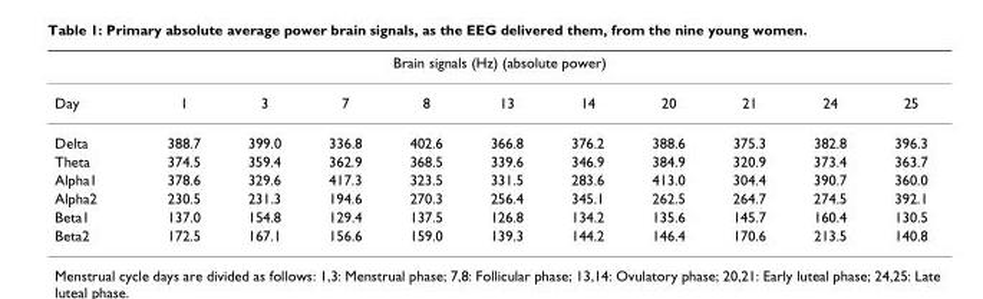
<table><thead><tr><td colspan="11">Brain signals (Hz) (absolute power)</td></tr><tr><td>Day</td><td>1</td><td>3</td><td>7</td><td>8</td><td>13</td><td>14</td><td>20</td><td>21</td><td>24</td><td>25</td></tr></thead><tbody><tr><td>Delta</td><td>388.7</td><td>399.0</td><td>336.8</td><td>402.6</td><td>366.8</td><td>376.2</td><td>388.6</td><td>375.3</td><td>382.8</td><td>396.3</td></tr><tr><td>Theta</td><td>374.5</td><td>359.4</td><td>362.9</td><td>368.5</td><td>339.6</td><td>346.9</td><td>384.9</td><td>320.9</td><td>373.4</td><td>363.7</td></tr><tr><td>Alpha1</td><td>378.6</td><td>329.6</td><td>417.3</td><td>323.5</td><td>331.5</td><td>283.6</td><td>413.0</td><td>304.4</td><td>390.7</td><td>360.0</td></tr><tr><td>Alpha2</td><td>230.5</td><td>231.3</td><td>194.6</td><td>270.3</td><td>256.4</td><td>345.1</td><td>262.5</td><td>264.7</td><td>274.5</td><td>392.1</td></tr><tr><td>Beta1</td><td>137.0</td><td>154.8</td><td>129.4</td><td>137.5</td><td>126.8</td><td>134.2</td><td>135.6</td><td>145.7</td><td>160.4</td><td>130.5</td></tr><tr><td>Beta2</td><td>172.5</td><td>167.1</td><td>156.6</td><td>159.0</td><td>139.3</td><td>144.2</td><td>146.4</td><td>170.6</td><td>213.5</td><td>140.8</td></tr></tbody></table>